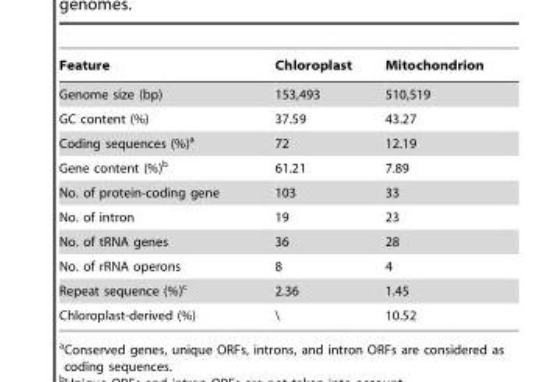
<table><thead><tr><td>Feature</td><td>Chloroplast</td><td>Mitochondrion</td></tr></thead><tbody><tr><td>Genome size (bp)</td><td>153,493</td><td>510,519</td></tr><tr><td>GC content (%)</td><td>37.59</td><td>43.27</td></tr><tr><td>Coding sequences (%)<sup>a</sup></td><td>72</td><td>12.19</td></tr><tr><td>Gene content (%)<sup>b</sup></td><td>61.21</td><td>7.89</td></tr><tr><td>No. of protein-coding gene</td><td>103</td><td>33</td></tr><tr><td>No. of intron</td><td>19</td><td>23</td></tr><tr><td>No. of tRNA genes</td><td>36</td><td>28</td></tr><tr><td>No. of rRNA operons</td><td>8</td><td>4</td></tr><tr><td>Repeat sequence (%)<sup>c</sup></td><td>2.36</td><td>1.45</td></tr><tr><td>Chloroplast-derived (%)</td><td>\</td><td>10.52</td></tr></tbody></table>